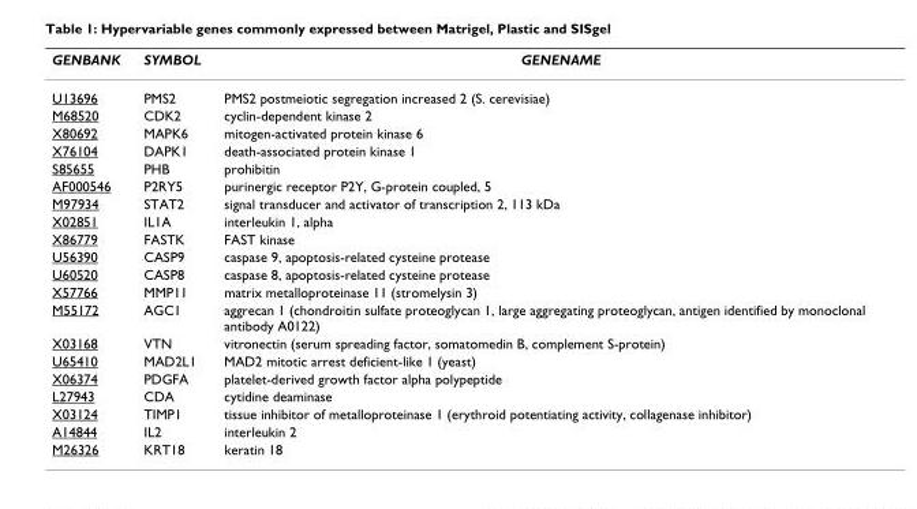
<table><thead><tr><td>GENBANK</td><td>SYMBOL</td><td>GENENAME</td></tr></thead><tbody><tr><td>U13696</td><td>PMS2</td><td>PMS2 postmeiotic segregation increased 2 (S. cerevisiae)</td></tr><tr><td>M68520</td><td>CDK2</td><td>cyclin-dependent kinase 2</td></tr><tr><td>X80692</td><td>MAPK6</td><td>mitogen-activated protein kinase 6</td></tr><tr><td>X76104</td><td>DAPK1</td><td>death-associated protein kinase 1</td></tr><tr><td>S85655</td><td>PHB</td><td>prohibitin</td></tr><tr><td>AF000546</td><td>P2RY5</td><td>purinergic receptor P2Y, G-protein coupled, 5</td></tr><tr><td>M97934</td><td>STAT2</td><td>signal transducer and activator of transcription 2, 113 kDa</td></tr><tr><td>X02851</td><td>IL1A</td><td>interleukin 1, alpha</td></tr><tr><td>X86779</td><td>FASTK</td><td>FAST kinase</td></tr><tr><td>U56390</td><td>CASP9</td><td>caspase 9, apoptosis-related cysteine protease</td></tr><tr><td>U60520</td><td>CASP8</td><td>caspase 8, apoptosis-related cysteine protease</td></tr><tr><td>X57766</td><td>MMP11</td><td>matrix metalloproteinase 11 (stromelysin 3)</td></tr><tr><td>M55172</td><td>AGC1</td><td>aggrecan 1 (chondroitin sulfate proteoglycan 1, large aggregating proteoglycan, antigen identified by monoclonal antibody A0122)</td></tr><tr><td>X03168</td><td>VTN</td><td>vitronectin (serum spreading factor, somatomedin B, complement S-protein)</td></tr><tr><td>U65410</td><td>MAD2L1</td><td>MAD2 mitotic arrest deficient-like 1 (yeast)</td></tr><tr><td>X06374</td><td>PDGFA</td><td>platelet-derived growth factor alpha polypeptide</td></tr><tr><td>L27943</td><td>CDA</td><td>cytidine deaminase</td></tr><tr><td>X03124</td><td>TIMP1</td><td>tissue inhibitor of metalloproteinase 1 (erythroid potentiating activity, collagenase inhibitor)</td></tr><tr><td>A14844</td><td>IL2</td><td>interleukin 2</td></tr><tr><td>M26326</td><td>KRT18</td><td>keratin 18</td></tr></tbody></table>